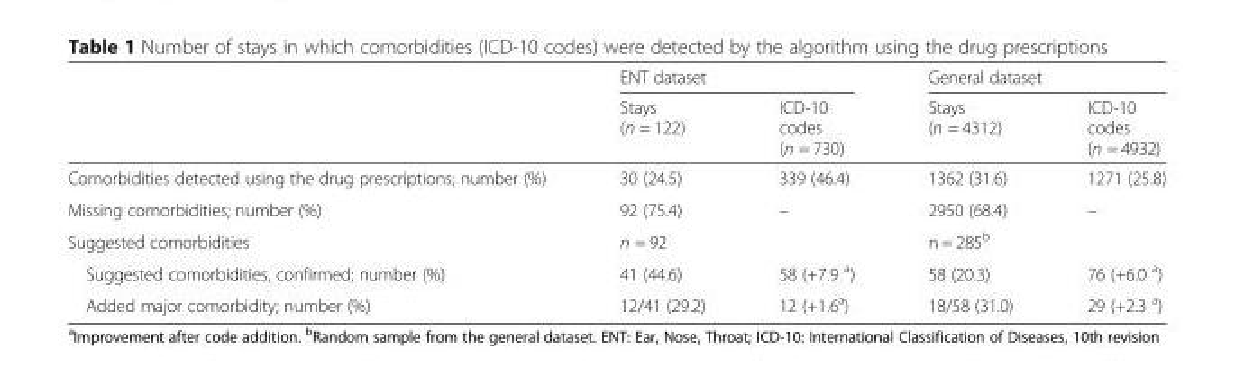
<table><thead><tr><td rowspan="2"></td><td colspan="2">ENT dataset</td><td colspan="2">General dataset</td></tr><tr><td>Stays (n = 122)</td><td>ICD-10 codes (n = 730)</td><td>Stays (n = 4312)</td><td>ICD-10 codes (n = 4932)</td></tr></thead><tbody><tr><td>Comorbidities detected using the drug prescriptions; number (%)</td><td>30 (24.5)</td><td>339 (46.4)</td><td>1362 (31.6)</td><td>1271 (25.8)</td></tr><tr><td>Missing comorbidities; number (%)</td><td>92 (75.4)</td><td>–</td><td>2950 (68.4)</td><td>–</td></tr><tr><td>Suggested comorbidities</td><td>n = 92</td><td></td><td>n = 285<sup>b</sup></td><td></td></tr><tr><td>Suggested comorbidities, confirmed; number (%)</td><td>41 (44.6)</td><td>58 (+7.9 <sup>a</sup>)</td><td>58 (20.3)</td><td>76 (+6.0 <sup>a</sup>)</td></tr><tr><td>Added major comorbidity; number (%)</td><td>12/41 (29.2)</td><td>12 (+1.6<sup>a</sup>)</td><td>18/58 (31.0)</td><td>29 (+2.3 <sup>a</sup>)</td></tr></tbody></table>